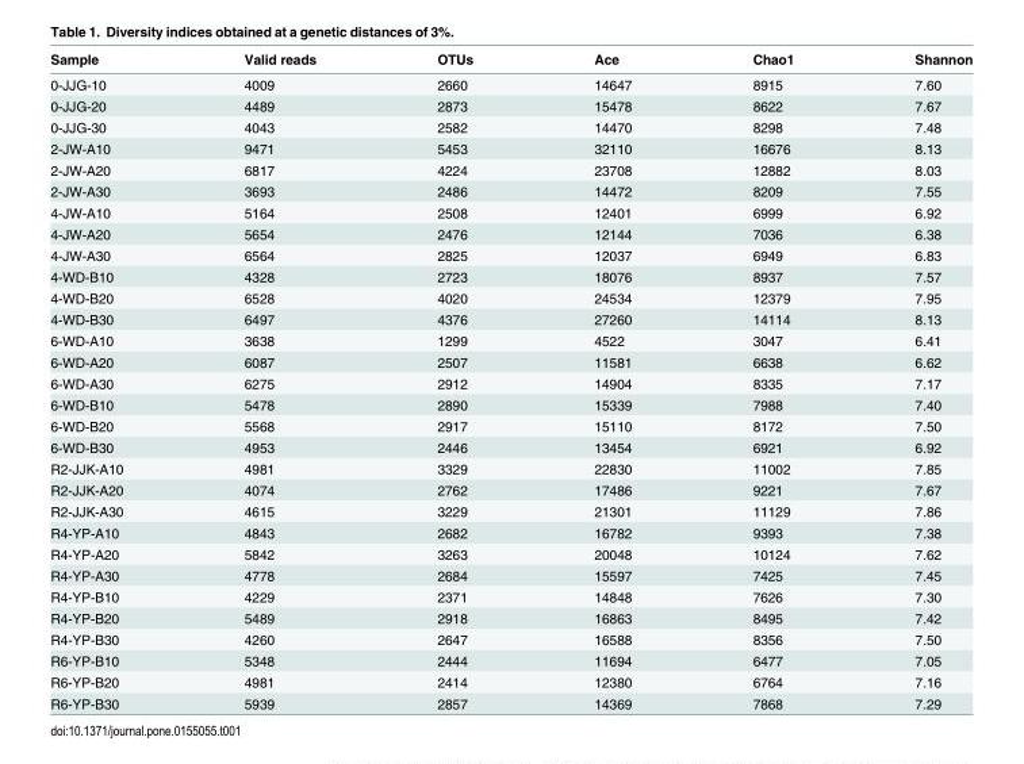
<table><thead><tr><td>Sample</td><td>Valid reads</td><td>OTUs</td><td>Ace</td><td>Chao1</td><td>Shannon</td></tr></thead><tbody><tr><td>0-JJG-10</td><td>4009</td><td>2660</td><td>14647</td><td>8915</td><td>7.60</td></tr><tr><td>0-JJG-20</td><td>4489</td><td>2873</td><td>15478</td><td>8622</td><td>7.67</td></tr><tr><td>0-JJG-30</td><td>4043</td><td>2582</td><td>14470</td><td>8298</td><td>7.48</td></tr><tr><td>2-JW-A10</td><td>9471</td><td>5453</td><td>32110</td><td>16676</td><td>8.13</td></tr><tr><td>2-JW-A20</td><td>6817</td><td>4224</td><td>23708</td><td>12882</td><td>8.03</td></tr><tr><td>2-JW-A30</td><td>3693</td><td>2486</td><td>14472</td><td>8209</td><td>7.55</td></tr><tr><td>4-JW-A10</td><td>5164</td><td>2508</td><td>12401</td><td>6999</td><td>6.92</td></tr><tr><td>4-JW-A20</td><td>5654</td><td>2476</td><td>12144</td><td>7036</td><td>6.38</td></tr><tr><td>4-JW-A30</td><td>6564</td><td>2825</td><td>12037</td><td>6949</td><td>6.83</td></tr><tr><td>4-WD-B10</td><td>4328</td><td>2723</td><td>18076</td><td>8937</td><td>7.57</td></tr><tr><td>4-WD-B20</td><td>6528</td><td>4020</td><td>24534</td><td>12379</td><td>7.95</td></tr><tr><td>4-WD-B30</td><td>6497</td><td>4376</td><td>27260</td><td>14114</td><td>8.13</td></tr><tr><td>6-WD-A10</td><td>3638</td><td>1299</td><td>4522</td><td>3047</td><td>6.41</td></tr><tr><td>6-WD-A20</td><td>6087</td><td>2507</td><td>11581</td><td>6638</td><td>6.62</td></tr><tr><td>6-WD-A30</td><td>6275</td><td>2912</td><td>14904</td><td>8335</td><td>7.17</td></tr><tr><td>6-WD-B10</td><td>5478</td><td>2890</td><td>15339</td><td>7988</td><td>7.40</td></tr><tr><td>6-WD-B20</td><td>5568</td><td>2917</td><td>15110</td><td>8172</td><td>7.50</td></tr><tr><td>6-WD-B30</td><td>4953</td><td>2446</td><td>13454</td><td>6921</td><td>6.92</td></tr><tr><td>R2-JJK-A10</td><td>4981</td><td>3329</td><td>22830</td><td>11002</td><td>7.85</td></tr><tr><td>R2-JJK-A20</td><td>4074</td><td>2762</td><td>17486</td><td>9221</td><td>7.67</td></tr><tr><td>R2-JJK-A30</td><td>4615</td><td>3229</td><td>21301</td><td>11129</td><td>7.86</td></tr><tr><td>R4-YP-A10</td><td>4843</td><td>2682</td><td>16782</td><td>9393</td><td>7.38</td></tr><tr><td>R4-YP-A20</td><td>5842</td><td>3263</td><td>20048</td><td>10124</td><td>7.62</td></tr><tr><td>R4-YP-A30</td><td>4778</td><td>2684</td><td>15597</td><td>7425</td><td>7.45</td></tr><tr><td>R4-YP-B10</td><td>4229</td><td>2371</td><td>14848</td><td>7626</td><td>7.30</td></tr><tr><td>R4-YP-B20</td><td>5489</td><td>2918</td><td>16863</td><td>8495</td><td>7.42</td></tr><tr><td>R4-YP-B30</td><td>4260</td><td>2647</td><td>16588</td><td>8356</td><td>7.50</td></tr><tr><td>R6-YP-B10</td><td>5348</td><td>2444</td><td>11694</td><td>6477</td><td>7.05</td></tr><tr><td>R6-YP-B20</td><td>4981</td><td>2414</td><td>12380</td><td>6764</td><td>7.16</td></tr><tr><td>R6-YP-B30</td><td>5939</td><td>2857</td><td>14369</td><td>7868</td><td>7.29</td></tr></tbody></table>